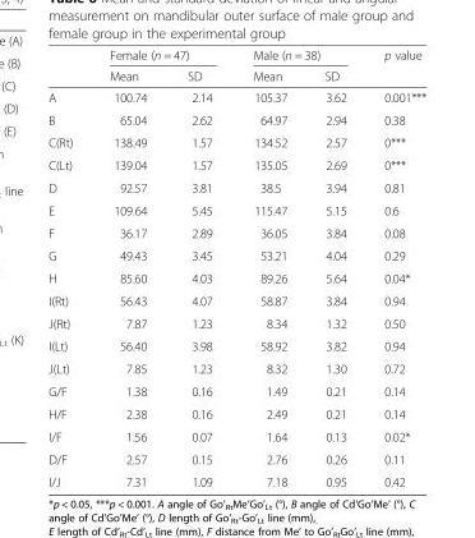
<table><thead><tr><td rowspan="2"></td><td colspan="2">Female (n = 47)</td><td colspan="2">Male (n = 38)</td><td rowspan="2">p value</td></tr><tr><td>Mean</td><td>SD</td><td>Mean</td><td>SD</td></tr></thead><tbody><tr><td>A</td><td>100.74</td><td>2.14</td><td>105.37</td><td>3.62</td><td>0.001***</td></tr><tr><td>B</td><td>65.04</td><td>2.62</td><td>64.97</td><td>2.94</td><td>0.38</td></tr><tr><td>C(Rt)</td><td>138.49</td><td>1.57</td><td>134.52</td><td>2.57</td><td>0***</td></tr><tr><td>C(Lt)</td><td>139.04</td><td>1.57</td><td>135.05</td><td>2.69</td><td>0***</td></tr><tr><td>D</td><td>92.57</td><td>3.81</td><td>38.5</td><td>3.94</td><td>0.81</td></tr><tr><td>E</td><td>109.64</td><td>5.45</td><td>115.47</td><td>5.15</td><td>0.6</td></tr><tr><td>F</td><td>36.17</td><td>2.89</td><td>36.05</td><td>3.84</td><td>0.08</td></tr><tr><td>G</td><td>49.43</td><td>3.45</td><td>53.21</td><td>4.04</td><td>0.29</td></tr><tr><td>H</td><td>85.60</td><td>4.03</td><td>89.26</td><td>5.64</td><td>0.04*</td></tr><tr><td>I(Rt)</td><td>56.43</td><td>4.07</td><td>58.87</td><td>3.84</td><td>0.94</td></tr><tr><td>J(Rt)</td><td>7.87</td><td>1.23</td><td>8.34</td><td>1.32</td><td>0.50</td></tr><tr><td>I(Lt)</td><td>56.40</td><td>3.98</td><td>58.92</td><td>3.82</td><td>0.94</td></tr><tr><td>J(Lt)</td><td>7.85</td><td>1.23</td><td>8.32</td><td>1.30</td><td>0.72</td></tr><tr><td>G/F</td><td>1.38</td><td>0.16</td><td>1.49</td><td>0.21</td><td>0.14</td></tr><tr><td>H/F</td><td>2.38</td><td>0.16</td><td>2.49</td><td>0.21</td><td>0.14</td></tr><tr><td>I/F</td><td>1.56</td><td>0.07</td><td>1.64</td><td>0.13</td><td>0.02*</td></tr><tr><td>D/F</td><td>2.57</td><td>0.15</td><td>2.76</td><td>0.26</td><td>0.11</td></tr><tr><td>I/J</td><td>7.31</td><td>1.09</td><td>7.18</td><td>0.95</td><td>0.42</td></tr></tbody></table>